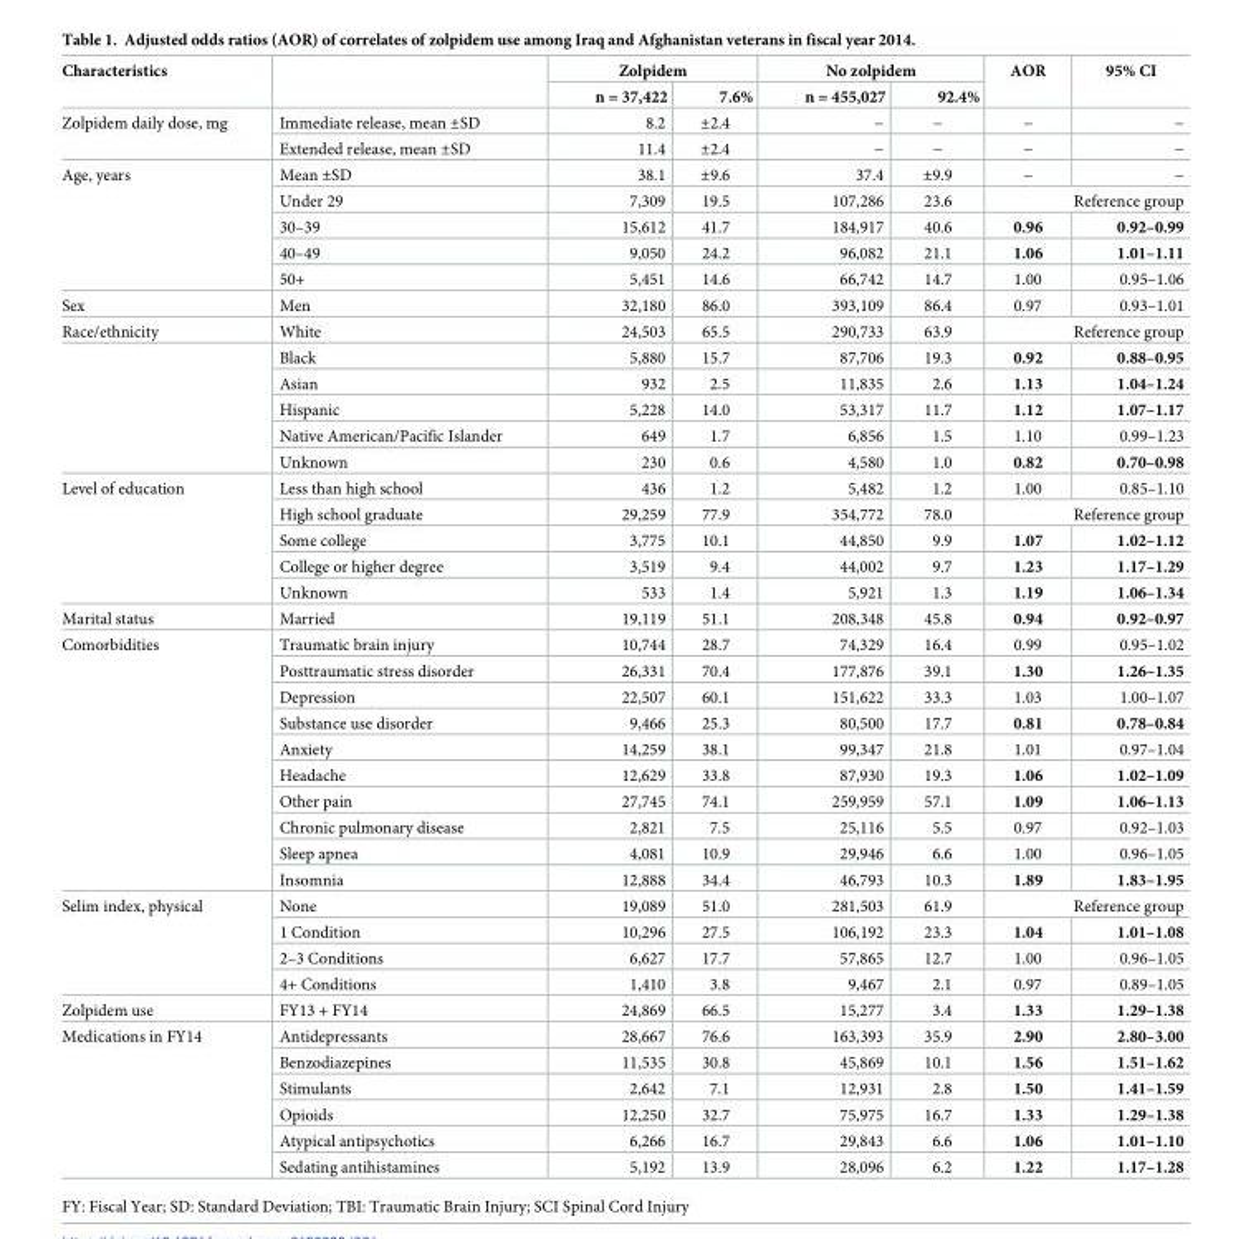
<table><thead><tr><td rowspan="2">Characteristics</td><td rowspan="2"></td><td colspan="2">Zolpidem</td><td colspan="2">No zolpidem</td><td rowspan="2">AOR</td><td rowspan="2">95% CI</td></tr><tr><td>n = 37,422</td><td>7.6%</td><td>n = 455,027</td><td>92.4%</td></tr></thead><tbody><tr><td rowspan="2">Zolpidem daily dose, mg</td><td>Immediate release, mean ±SD</td><td>8.2</td><td>±2.4</td><td>−</td><td>−</td><td>−</td><td>−</td></tr><tr><td>Extended release, mean ±SD</td><td>11.4</td><td>±2.4</td><td>−</td><td>−</td><td>−</td><td>−</td></tr><tr><td rowspan="5">Age, years</td><td>Mean ±SD</td><td>38.1</td><td>±9.6</td><td>37.4</td><td>±9.9</td><td>−</td><td>−</td></tr><tr><td>Under 29</td><td>7,309</td><td>19.5</td><td>107,286</td><td>23.6</td><td colspan="2">Reference group</td></tr><tr><td>30–39</td><td>15,612</td><td>41.7</td><td>184,917</td><td>40.6</td><td>0.96</td><td>0.92–0.99</td></tr><tr><td>40–49</td><td>9,050</td><td>24.2</td><td>96,082</td><td>21.1</td><td>1.06</td><td>1.01–1.11</td></tr><tr><td>50+</td><td>5,451</td><td>14.6</td><td>66,742</td><td>14.7</td><td>1.00</td><td>0.95–1.06</td></tr><tr><td>Sex</td><td>Men</td><td>32,180</td><td>86.0</td><td>393,109</td><td>86.4</td><td>0.97</td><td>0.93–1.01</td></tr><tr><td rowspan="6">Race/ethnicity</td><td>White</td><td>24,503</td><td>65.5</td><td>290,733</td><td>63.9</td><td colspan="2">Reference group</td></tr><tr><td>Black</td><td>5,880</td><td>15.7</td><td>87,706</td><td>19.3</td><td>0.92</td><td>0.88–0.95</td></tr><tr><td>Asian</td><td>932</td><td>2.5</td><td>11,835</td><td>2.6</td><td>1.13</td><td>1.04–1.24</td></tr><tr><td>Hispanic</td><td>5,228</td><td>14.0</td><td>53,317</td><td>11.7</td><td>1.12</td><td>1.07–1.17</td></tr><tr><td>Native American/Pacific Islander</td><td>649</td><td>1.7</td><td>6,856</td><td>1.5</td><td>1.10</td><td>0.99–1.23</td></tr><tr><td>Unknown</td><td>230</td><td>0.6</td><td>4,580</td><td>1.0</td><td>0.82</td><td>0.70–0.98</td></tr><tr><td rowspan="5">Level of education</td><td>Less than high school</td><td>436</td><td>1.2</td><td>5,482</td><td>1.2</td><td>1.00</td><td>0.85–1.10</td></tr><tr><td>High school graduate</td><td>29,259</td><td>77.9</td><td>354,772</td><td>78.0</td><td colspan="2">Reference group</td></tr><tr><td>Some college</td><td>3,775</td><td>10.1</td><td>44,850</td><td>9.9</td><td>1.07</td><td>1.02–1.12</td></tr><tr><td>College or higher degree</td><td>3,519</td><td>9.4</td><td>44,002</td><td>9.7</td><td>1.23</td><td>1.17–1.29</td></tr><tr><td>Unknown</td><td>533</td><td>1.4</td><td>5,921</td><td>1.3</td><td>1.19</td><td>1.06–1.34</td></tr><tr><td>Marital status</td><td>Married</td><td>19,119</td><td>51.1</td><td>208,348</td><td>45.8</td><td>0.94</td><td>0.92–0.97</td></tr><tr><td rowspan="10">Comorbidities</td><td>Traumatic brain injury</td><td>10,744</td><td>28.7</td><td>74,329</td><td>16.4</td><td>0.99</td><td>0.95–1.02</td></tr><tr><td>Posttraumatic stress disorder</td><td>26,331</td><td>70.4</td><td>177,876</td><td>39.1</td><td>1.30</td><td>1.26–1.35</td></tr><tr><td>Depression</td><td>22,507</td><td>60.1</td><td>151,622</td><td>33.3</td><td>1.03</td><td>1.00–1.07</td></tr><tr><td>Substance use disorder</td><td>9,466</td><td>25.3</td><td>80,500</td><td>17.7</td><td>0.81</td><td>0.78–0.84</td></tr><tr><td>Anxiety</td><td>14,259</td><td>38.1</td><td>99,347</td><td>21.8</td><td>1.01</td><td>0.97–1.04</td></tr><tr><td>Headache</td><td>12,629</td><td>33.8</td><td>87,930</td><td>19.3</td><td>1.06</td><td>1.02–1.09</td></tr><tr><td>Other pain</td><td>27,745</td><td>74.1</td><td>259,959</td><td>57.1</td><td>1.09</td><td>1.06–1.13</td></tr><tr><td>Chronic pulmonary disease</td><td>2,821</td><td>7.5</td><td>25,116</td><td>5.5</td><td>0.97</td><td>0.92–1.03</td></tr><tr><td>Sleep apnea</td><td>4,081</td><td>10.9</td><td>29,946</td><td>6.6</td><td>1.00</td><td>0.96–1.05</td></tr><tr><td>Insomnia</td><td>12,888</td><td>34.4</td><td>46,793</td><td>10.3</td><td>1.89</td><td>1.83–1.95</td></tr><tr><td rowspan="4">Selim index, physical</td><td>None</td><td>19,089</td><td>51.0</td><td>281,503</td><td>61.9</td><td colspan="2">Reference group</td></tr><tr><td>1 Condition</td><td>10,296</td><td>27.5</td><td>106,192</td><td>23.3</td><td>1.04</td><td>1.01–1.08</td></tr><tr><td>2–3 Conditions</td><td>6,627</td><td>17.7</td><td>57,865</td><td>12.7</td><td>1.00</td><td>0.96–1.05</td></tr><tr><td>4+ Conditions</td><td>1,410</td><td>3.8</td><td>9,467</td><td>2.1</td><td>0.97</td><td>0.89–1.05</td></tr><tr><td>Zolpidem use</td><td>FY13 + FY14</td><td>24,869</td><td>66.5</td><td>15,277</td><td>3.4</td><td>1.33</td><td>1.29–1.38</td></tr><tr><td rowspan="6">Medications in FY14</td><td>Antidepressants</td><td>28,667</td><td>76.6</td><td>163,393</td><td>35.9</td><td>2.90</td><td>2.80–3.00</td></tr><tr><td>Benzodiazepines</td><td>11,535</td><td>30.8</td><td>45,869</td><td>10.1</td><td>1.56</td><td>1.51–1.62</td></tr><tr><td>Stimulants</td><td>2,642</td><td>7.1</td><td>12,931</td><td>2.8</td><td>1.50</td><td>1.41–1.59</td></tr><tr><td>Opioids</td><td>12,250</td><td>32.7</td><td>75,975</td><td>16.7</td><td>1.33</td><td>1.29–1.38</td></tr><tr><td>Atypical antipsychotics</td><td>6,266</td><td>16.7</td><td>29,843</td><td>6.6</td><td>1.06</td><td>1.01–1.10</td></tr><tr><td>Sedating antihistamines</td><td>5,192</td><td>13.9</td><td>28,096</td><td>6.2</td><td>1.22</td><td>1.17–1.28</td></tr></tbody></table>